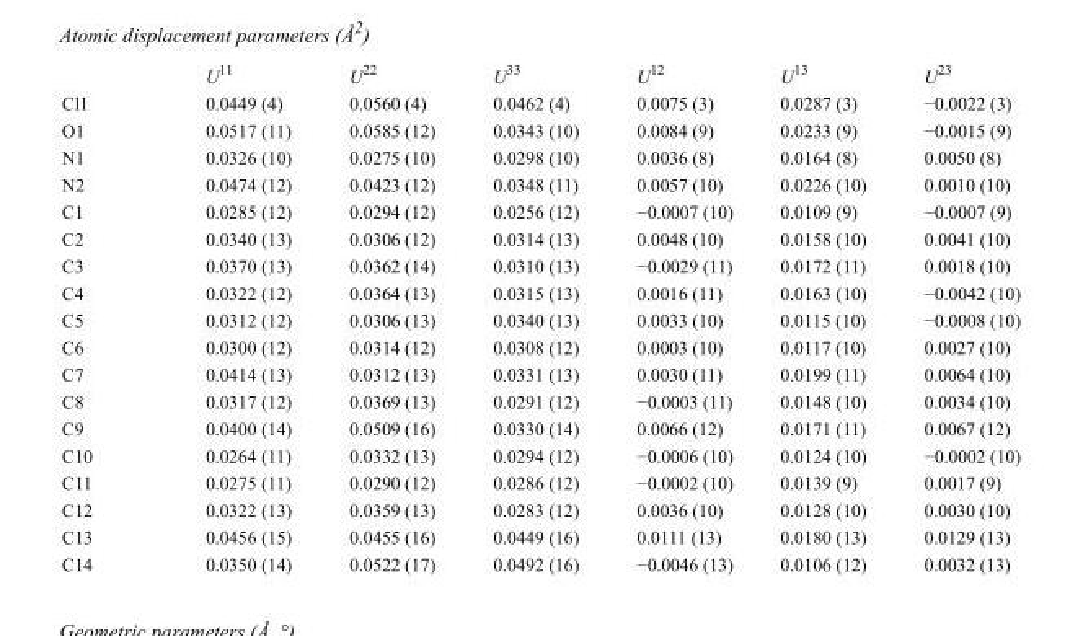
<table><thead><tr><td></td><td>U<sup>11</sup></td><td>U<sup>22</sup></td><td>U<sup>33</sup></td><td>U<sup>12</sup></td><td>U<sup>13</sup></td><td>U<sup>23</sup></td></tr></thead><tbody><tr><td>Cl1</td><td>0.0449 (4)</td><td>0.0560 (4)</td><td>0.0462 (4)</td><td>0.0075 (3)</td><td>0.0287 (3)</td><td>−0.0022 (3)</td></tr><tr><td>O1</td><td>0.0517 (11)</td><td>0.0585 (12)</td><td>0.0343 (10)</td><td>0.0084 (9)</td><td>0.0233 (9)</td><td>−0.0015 (9)</td></tr><tr><td>N1</td><td>0.0326 (10)</td><td>0.0275 (10)</td><td>0.0298 (10)</td><td>0.0036 (8)</td><td>0.0164 (8)</td><td>0.0050 (8)</td></tr><tr><td>N2</td><td>0.0474 (12)</td><td>0.0423 (12)</td><td>0.0348 (11)</td><td>0.0057 (10)</td><td>0.0226 (10)</td><td>0.0010 (10)</td></tr><tr><td>C1</td><td>0.0285 (12)</td><td>0.0294 (12)</td><td>0.0256 (12)</td><td>−0.0007 (10)</td><td>0.0109 (9)</td><td>−0.0007 (9)</td></tr><tr><td>C2</td><td>0.0340 (13)</td><td>0.0306 (12)</td><td>0.0314 (13)</td><td>0.0048 (10)</td><td>0.0158 (10)</td><td>0.0041 (10)</td></tr><tr><td>C3</td><td>0.0370 (13)</td><td>0.0362 (14)</td><td>0.0310 (13)</td><td>−0.0029 (11)</td><td>0.0172 (11)</td><td>0.0018 (10)</td></tr><tr><td>C4</td><td>0.0322 (12)</td><td>0.0364 (13)</td><td>0.0315 (13)</td><td>0.0016 (11)</td><td>0.0163 (10)</td><td>−0.0042 (10)</td></tr><tr><td>C5</td><td>0.0312 (12)</td><td>0.0306 (13)</td><td>0.0340 (13)</td><td>0.0033 (10)</td><td>0.0115 (10)</td><td>−0.0008 (10)</td></tr><tr><td>C6</td><td>0.0300 (12)</td><td>0.0314 (12)</td><td>0.0308 (12)</td><td>0.0003 (10)</td><td>0.0117 (10)</td><td>0.0027 (10)</td></tr><tr><td>C7</td><td>0.0414 (13)</td><td>0.0312 (13)</td><td>0.0331 (13)</td><td>0.0030 (11)</td><td>0.0199 (11)</td><td>0.0064 (10)</td></tr><tr><td>C8</td><td>0.0317 (12)</td><td>0.0369 (13)</td><td>0.0291 (12)</td><td>−0.0003 (11)</td><td>0.0148 (10)</td><td>0.0034 (10)</td></tr><tr><td>C9</td><td>0.0400 (14)</td><td>0.0509 (16)</td><td>0.0330 (14)</td><td>0.0066 (12)</td><td>0.0171 (11)</td><td>0.0067 (12)</td></tr><tr><td>C10</td><td>0.0264 (11)</td><td>0.0332 (13)</td><td>0.0294 (12)</td><td>−0.0006 (10)</td><td>0.0124 (10)</td><td>−0.0002 (10)</td></tr><tr><td>C11</td><td>0.0275 (11)</td><td>0.0290 (12)</td><td>0.0286 (12)</td><td>−0.0002 (10)</td><td>0.0139 (9)</td><td>0.0017 (9)</td></tr><tr><td>C12</td><td>0.0322 (13)</td><td>0.0359 (13)</td><td>0.0283 (12)</td><td>0.0036 (10)</td><td>0.0128 (10)</td><td>0.0030 (10)</td></tr><tr><td>C13</td><td>0.0456 (15)</td><td>0.0455 (16)</td><td>0.0449 (16)</td><td>0.0111 (13)</td><td>0.0180 (13)</td><td>0.0129 (13)</td></tr><tr><td>C14</td><td>0.0350 (14)</td><td>0.0522 (17)</td><td>0.0492 (16)</td><td>−0.0046 (13)</td><td>0.0106 (12)</td><td>0.0032 (13)</td></tr></tbody></table>